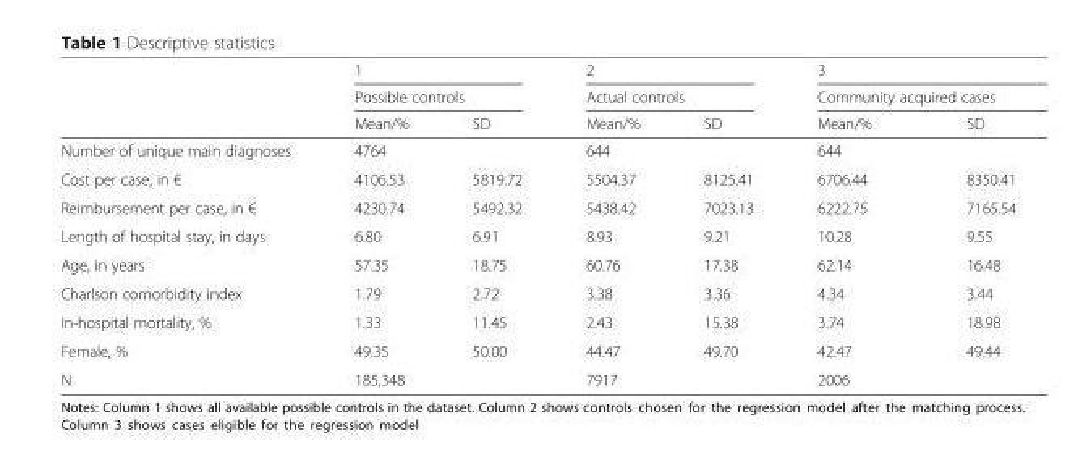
<table><thead><tr><td rowspan="3"></td><td rowspan="2" colspan="2">1 Possible controls</td><td rowspan="2" colspan="2">2 Actual controls</td><td rowspan="2" colspan="2">3 Community acquired cases</td></tr><tr></tr><tr><td>Mean/%</td><td>SD</td><td>Mean/%</td><td>SD</td><td>Mean/%</td><td>SD</td></tr></thead><tbody><tr><td>Number of unique main diagnoses</td><td>4764</td><td></td><td>644</td><td></td><td>644</td><td></td></tr><tr><td>Cost per case, in €</td><td>4106.53</td><td>5819.72</td><td>5504.37</td><td>8125.41</td><td>6706.44</td><td>8350.41</td></tr><tr><td>Reimbursement per case, in €</td><td>4230.74</td><td>5492.32</td><td>5438.42</td><td>7023.13</td><td>6222.75</td><td>7165.54</td></tr><tr><td>Length of hospital stay, in days</td><td>6.80</td><td>6.91</td><td>8.93</td><td>9.21</td><td>10.28</td><td>9.55</td></tr><tr><td>Age, in years</td><td>57.35</td><td>18.75</td><td>60.76</td><td>17.38</td><td>62.14</td><td>16.48</td></tr><tr><td>Charlson comorbidity index</td><td>1.79</td><td>2.72</td><td>3.38</td><td>3.36</td><td>4.34</td><td>3.44</td></tr><tr><td>In-hospital mortality, %</td><td>1.33</td><td>11.45</td><td>2.43</td><td>15.38</td><td>3.74</td><td>18.98</td></tr><tr><td>Female, %</td><td>49.35</td><td>50.00</td><td>44.47</td><td>49.70</td><td>42.47</td><td>49.44</td></tr><tr><td>N</td><td>185,348</td><td></td><td>7917</td><td></td><td>2006</td><td></td></tr></tbody></table>